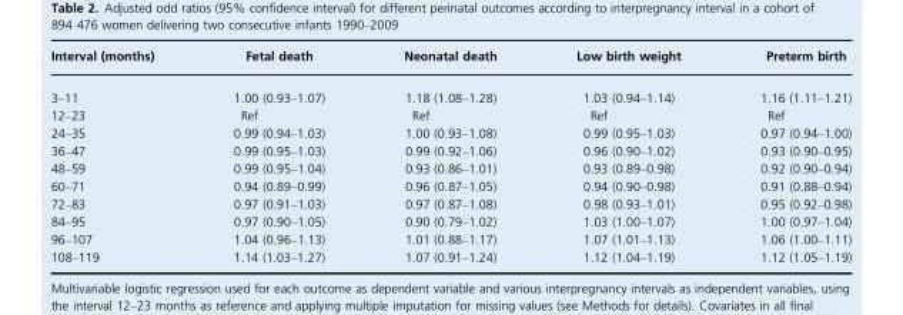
<table><thead><tr><td>Interval (months)</td><td>Fetal death</td><td>Neonatal death</td><td>Low birth weight</td><td>Preterm birth</td></tr></thead><tbody><tr><td>3–11</td><td>1.00 (0.93–1.07)</td><td>1.18 (1.08–1.28)</td><td>1.03 (0.94–1.14)</td><td>1.16 (1.11–1.21)</td></tr><tr><td>12–23</td><td>Ref</td><td>Ref</td><td>Ref</td><td>Ref</td></tr><tr><td>24–35</td><td>0.99 (0.94–1.03)</td><td>1.00 (0.93–1.08)</td><td>0.99 (0.95–1.03)</td><td>0.97 (0.94–1.00)</td></tr><tr><td>36–47</td><td>0.99 (0.95–1.03)</td><td>0.99 (0.92–1.06)</td><td>0.96 (0.90–1.02)</td><td>0.93 (0.90–0.95)</td></tr><tr><td>48–59</td><td>0.99 (0.95–1.04)</td><td>0.93 (0.86–1.01)</td><td>0.93 (0.89–0.98)</td><td>0.92 (0.90–0.94)</td></tr><tr><td>60–71</td><td>0.94 (0.89–0.99)</td><td>0.96 (0.87–1.05)</td><td>0.94 (0.90–0.98)</td><td>0.91 (0.88–0.94)</td></tr><tr><td>72–83</td><td>0.97 (0.91–1.03)</td><td>0.97 (0.87–1.08)</td><td>0.98 (0.93–1.01)</td><td>0.95 (0.92–0.98)</td></tr><tr><td>84–95</td><td>0.97 (0.90–1.05)</td><td>0.90 (0.79–1.02)</td><td>1.03 (1.00–1.07)</td><td>1.00 (0.97–1.04)</td></tr><tr><td>96–107</td><td>1.04 (0.96–1.13)</td><td>1.01 (0.88–1.17)</td><td>1.07 (1.01–1.13)</td><td>1.06 (1.00–1.11)</td></tr><tr><td>108–119</td><td>1.14 (1.03–1.27)</td><td>1.07 (0.91–1.24)</td><td>1.12 (1.04–1.19)</td><td>1.12 (1.05–1.19)</td></tr></tbody></table>